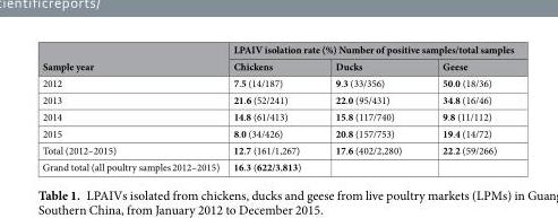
<table><thead><tr><td rowspan="2">Sample year</td><td colspan="3">LPAIV isolation rate (%) Number of positive samples/total samples</td></tr><tr><td>Chickens</td><td>Ducks</td><td>Geese</td></tr></thead><tbody><tr><td>2012</td><td>7.5 (14/187)</td><td>9.3 (33/356)</td><td>50.0 (18/36)</td></tr><tr><td>2013</td><td>21.6 (52/241)</td><td>22.0 (95/431)</td><td>34.8 (16/46)</td></tr><tr><td>2014</td><td>14.8 (61/413)</td><td>15.8 (117/740)</td><td>9.8 (11/112)</td></tr><tr><td>2015</td><td>8.0 (34/426)</td><td>20.8 (157/753)</td><td>19.4 (14/72)</td></tr><tr><td>Total (2012–2015)</td><td>12.7 (161/1,267)</td><td>17.6 (402/2,280)</td><td>22.2 (59/266)</td></tr><tr><td>Grand total (all poultry samples 2012–2015)</td><td>16.3 (622/3,813)</td><td></td><td></td></tr></tbody></table>